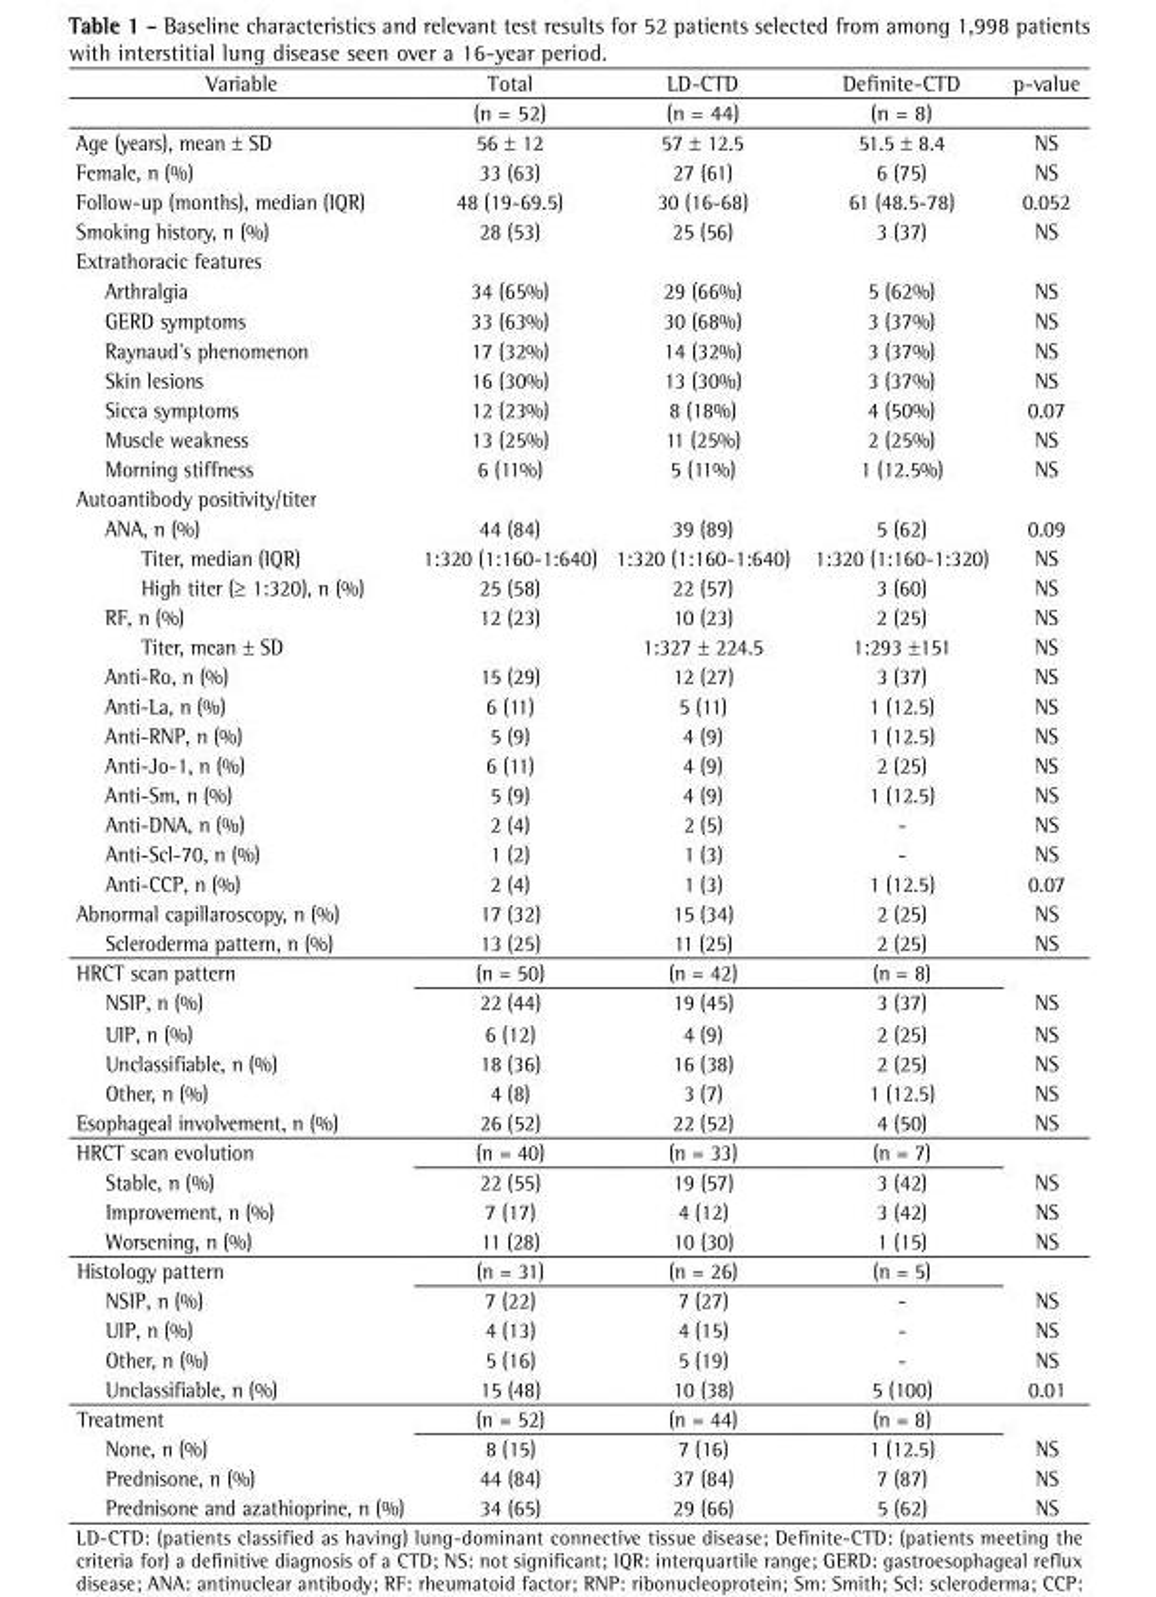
<table><thead><tr><td rowspan="2">Variable</td><td rowspan="2">Total (n = 52)</td><td rowspan="2">LD-CTD (n = 44)</td><td rowspan="2">Definite-CTD (n = 8)</td><td rowspan="2">p-value</td></tr><tr></tr></thead><tbody><tr><td>Age (years), mean ± SD</td><td>56 ± 12</td><td>57 ± 12.5</td><td>51.5 ± 8.4</td><td>NS</td></tr><tr><td>Female, n (%)</td><td>33 (63)</td><td>27 (61)</td><td>6 (75)</td><td>NS</td></tr><tr><td>Follow-up (months), median (IQR)</td><td>48 (19-69.5)</td><td>30 (16-68)</td><td>61 (48.5-78)</td><td>0.052</td></tr><tr><td>Smoking history, n (%)</td><td>28 (53)</td><td>25 (56)</td><td>3 (37)</td><td>NS</td></tr><tr><td colspan="5">Extrathoracic features</td></tr><tr><td>Arthralgia</td><td>34 (65%)</td><td>29 (66%)</td><td>5 (62%)</td><td>NS</td></tr><tr><td>GERD symptoms</td><td>33 (63%)</td><td>30 (68%)</td><td>3 (37%)</td><td>NS</td></tr><tr><td>Raynaud’s phenomenon</td><td>17 (32%)</td><td>14 (32%)</td><td>3 (37%)</td><td>NS</td></tr><tr><td>Skin lesions</td><td>16 (30%)</td><td>13 (30%)</td><td>3 (37%)</td><td>NS</td></tr><tr><td>Sicca symptoms</td><td>12 (23%)</td><td>8 (18%)</td><td>4 (50%)</td><td>0.07</td></tr><tr><td>Muscle weakness</td><td>13 (25%)</td><td>11 (25%)</td><td>2 (25%)</td><td>NS</td></tr><tr><td>Morning stiffness</td><td>6 (11%)</td><td>5 (11%)</td><td>1 (12.5%)</td><td>NS</td></tr><tr><td colspan="5">Autoantibody positivity/titer</td></tr><tr><td>ANA, n (%)</td><td>44 (84)</td><td>39 (89)</td><td>5 (62)</td><td>0.09</td></tr><tr><td>Titer, median (IQR)</td><td>1:320 (1:160-1:640)</td><td>1:320 (1:160-1:640)</td><td>1:320 (1:160-1:320)</td><td>NS</td></tr><tr><td>High titer (≥ 1:320), n (%)</td><td>25 (58)</td><td>22 (57)</td><td>3 (60)</td><td>NS</td></tr><tr><td>RF, n (%)</td><td>12 (23)</td><td>10 (23)</td><td>2 (25)</td><td>NS</td></tr><tr><td>Titer, mean ± SD</td><td></td><td>1:327 ± 224.5</td><td>1:293 ±151</td><td>NS</td></tr><tr><td>Anti-Ro, n (%)</td><td>15 (29)</td><td>12 (27)</td><td>3 (37)</td><td>NS</td></tr><tr><td>Anti-La, n (%)</td><td>6 (11)</td><td>5 (11)</td><td>1 (12.5)</td><td>NS</td></tr><tr><td>Anti-RNP, n (%)</td><td>5 (9)</td><td>4 (9)</td><td>1 (12.5)</td><td>NS</td></tr><tr><td>Anti-Jo-1, n (%)</td><td>6 (11)</td><td>4 (9)</td><td>2 (25)</td><td>NS</td></tr><tr><td>Anti-Sm, n (%)</td><td>5 (9)</td><td>4 (9)</td><td>1 (12.5)</td><td>NS</td></tr><tr><td>Anti-DNA, n (%)</td><td>2 (4)</td><td>2 (5)</td><td>-</td><td>NS</td></tr><tr><td>Anti-Scl-70, n (%)</td><td>1 (2)</td><td>1 (3)</td><td>-</td><td>NS</td></tr><tr><td>Anti-CCP, n (%)</td><td>2 (4)</td><td>1 (3)</td><td>1 (12.5)</td><td>0.07</td></tr><tr><td>Abnormal capillaroscopy, n (%)</td><td>17 (32)</td><td>15 (34)</td><td>2 (25)</td><td>NS</td></tr><tr><td>Scleroderma pattern, n (%)</td><td>13 (25)</td><td>11 (25)</td><td>2 (25)</td><td>NS</td></tr><tr><td>HRCT scan pattern</td><td>(n = 50)</td><td>(n = 42)</td><td>(n = 8)</td><td></td></tr><tr><td>NSIP, n (%)</td><td>22 (44)</td><td>19 (45)</td><td>3 (37)</td><td>NS</td></tr><tr><td>UIP, n (%)</td><td>6 (12)</td><td>4 (9)</td><td>2 (25)</td><td>NS</td></tr><tr><td>Unclassifiable, n (%)</td><td>18 (36)</td><td>16 (38)</td><td>2 (25)</td><td>NS</td></tr><tr><td>Other, n (%)</td><td>4 (8)</td><td>3 (7)</td><td>1 (12.5)</td><td>NS</td></tr><tr><td>Esophageal involvement, n (%)</td><td>26 (52)</td><td>22 (52)</td><td>4 (50)</td><td>NS</td></tr><tr><td>HRCT scan evolution</td><td>(n = 40)</td><td>(n = 33)</td><td>(n = 7)</td><td></td></tr><tr><td>Stable, n (%)</td><td>22 (55)</td><td>19 (57)</td><td>3 (42)</td><td>NS</td></tr><tr><td>Improvement, n (%)</td><td>7 (17)</td><td>4 (12)</td><td>3 (42)</td><td>NS</td></tr><tr><td>Worsening, n (%)</td><td>11 (28)</td><td>10 (30)</td><td>1 (15)</td><td>NS</td></tr><tr><td>Histology pattern</td><td>(n = 31)</td><td>(n = 26)</td><td>(n = 5)</td><td></td></tr><tr><td>NSIP, n (%)</td><td>7 (22)</td><td>7 (27)</td><td>-</td><td>NS</td></tr><tr><td>UIP, n (%)</td><td>4 (13)</td><td>4 (15)</td><td>-</td><td>NS</td></tr><tr><td>Other, n (%)</td><td>5 (16)</td><td>5 (19)</td><td>-</td><td>NS</td></tr><tr><td>Unclassifiable, n (%)</td><td>15 (48)</td><td>10 (38)</td><td>5 (100)</td><td>0.01</td></tr><tr><td>Treatment</td><td>(n = 52)</td><td>(n = 44)</td><td>(n = 8)</td><td></td></tr><tr><td>None, n (%)</td><td>8 (15)</td><td>7 (16)</td><td>1 (12.5)</td><td>NS</td></tr><tr><td>Prednisone, n (%)</td><td>44 (84)</td><td>37 (84)</td><td>7 (87)</td><td>NS</td></tr><tr><td>Prednisone and azathioprine, n (%)</td><td>34 (65)</td><td>29 (66)</td><td>5 (62)</td><td>NS</td></tr></tbody></table>